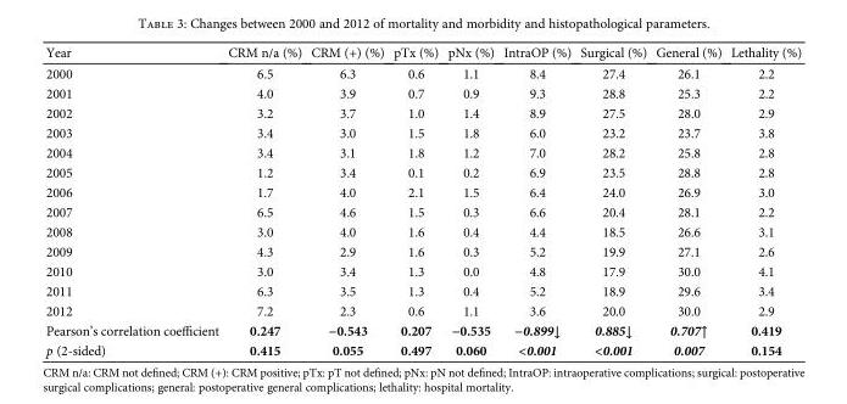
<table><thead><tr><td>Year</td><td>CRM n/a (%)</td><td>CRM (+) (%)</td><td>pTx (%)</td><td>pNx (%)</td><td>IntraOP (%)</td><td>Surgical (%)</td><td>General (%)</td><td>Lethality (%)</td></tr></thead><tbody><tr><td>2000</td><td>6.5</td><td>6.3</td><td>0.6</td><td>1.1</td><td>8.4</td><td>27.4</td><td>26.1</td><td>2.2</td></tr><tr><td>2001</td><td>4.0</td><td>3.9</td><td>0.7</td><td>0.9</td><td>9.3</td><td>28.8</td><td>25.3</td><td>2.2</td></tr><tr><td>2002</td><td>3.2</td><td>3.7</td><td>1.0</td><td>1.4</td><td>8.9</td><td>27.5</td><td>28.0</td><td>2.9</td></tr><tr><td>2003</td><td>3.4</td><td>3.0</td><td>1.5</td><td>1.8</td><td>6.0</td><td>23.2</td><td>23.7</td><td>3.8</td></tr><tr><td>2004</td><td>3.4</td><td>3.1</td><td>1.8</td><td>1.2</td><td>7.0</td><td>28.2</td><td>25.8</td><td>2.8</td></tr><tr><td>2005</td><td>1.2</td><td>3.4</td><td>0.1</td><td>0.2</td><td>6.9</td><td>23.5</td><td>28.8</td><td>2.8</td></tr><tr><td>2006</td><td>1.7</td><td>4.0</td><td>2.1</td><td>1.5</td><td>6.4</td><td>24.0</td><td>26.9</td><td>3.0</td></tr><tr><td>2007</td><td>6.5</td><td>4.6</td><td>1.5</td><td>0.3</td><td>6.6</td><td>20.4</td><td>28.1</td><td>2.2</td></tr><tr><td>2008</td><td>3.0</td><td>4.0</td><td>1.6</td><td>0.4</td><td>4.4</td><td>18.5</td><td>26.6</td><td>3.1</td></tr><tr><td>2009</td><td>4.3</td><td>2.9</td><td>1.6</td><td>0.3</td><td>5.2</td><td>19.9</td><td>27.1</td><td>2.6</td></tr><tr><td>2010</td><td>3.0</td><td>3.4</td><td>1.3</td><td>0.0</td><td>4.8</td><td>17.9</td><td>30.0</td><td>4.1</td></tr><tr><td>2011</td><td>6.3</td><td>3.5</td><td>1.3</td><td>0.4</td><td>5.2</td><td>18.9</td><td>29.6</td><td>3.4</td></tr><tr><td>2012</td><td>7.2</td><td>2.3</td><td>0.6</td><td>1.1</td><td>3.6</td><td>20.0</td><td>30.0</td><td>2.9</td></tr><tr><td>Pearson’s correlation coefficient</td><td>0.247</td><td>−0.543</td><td>0.207</td><td>−0.535</td><td>−0.899↓</td><td>0.885↓</td><td>0.707↑</td><td>0.419</td></tr><tr><td>p (2-sided)</td><td>0.415</td><td>0.055</td><td>0.497</td><td>0.060</td><td>&lt;0.001</td><td>&lt;0.001</td><td>0.007</td><td>0.154</td></tr></tbody></table>